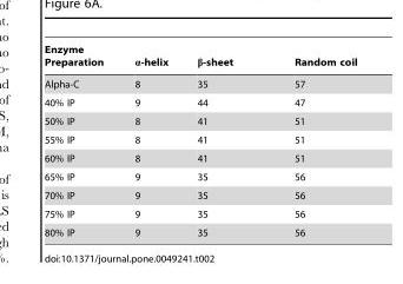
<table><thead><tr><td>Enzyme Preparation</td><td>α-helix</td><td>β-sheet</td><td>Random coil</td></tr></thead><tbody><tr><td>Alpha-C</td><td>8</td><td>35</td><td>57</td></tr><tr><td>40% IP</td><td>9</td><td>44</td><td>47</td></tr><tr><td>50% IP</td><td>8</td><td>41</td><td>51</td></tr><tr><td>55% IP</td><td>8</td><td>41</td><td>51</td></tr><tr><td>60% IP</td><td>8</td><td>41</td><td>51</td></tr><tr><td>65% IP</td><td>9</td><td>35</td><td>56</td></tr><tr><td>70% IP</td><td>9</td><td>35</td><td>56</td></tr><tr><td>75% IP</td><td>9</td><td>35</td><td>56</td></tr><tr><td>80% IP</td><td>9</td><td>35</td><td>56</td></tr></tbody></table>